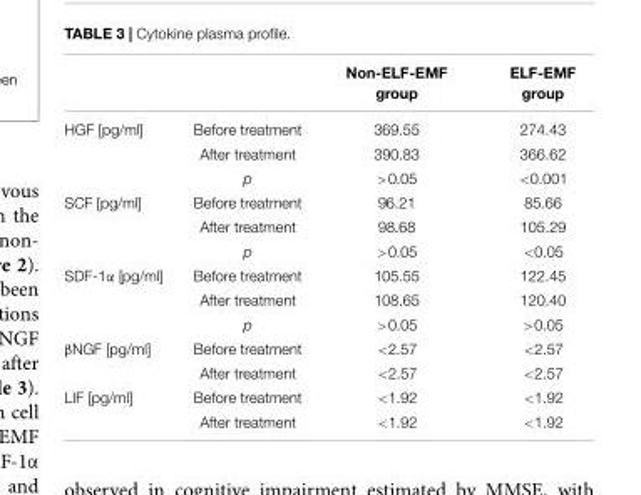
<table><thead><tr><td></td><td></td><td>Non-ELF-EMF group</td><td>ELF-EMF group</td></tr></thead><tbody><tr><td rowspan="3">HGF [pg/ml]</td><td>Before treatment</td><td>369.55</td><td>274.43</td></tr><tr><td>After treatment</td><td>390.83</td><td>366.62</td></tr><tr><td>p</td><td>&gt;0.05</td><td>&lt;0.001</td></tr><tr><td rowspan="3">SCF [pg/ml]</td><td>Before treatment</td><td>96.21</td><td>85.66</td></tr><tr><td>After treatment</td><td>98.68</td><td>105.29</td></tr><tr><td>p</td><td>&gt;0.05</td><td>&lt;0.05</td></tr><tr><td rowspan="3">SDF-1α [pg/ml]</td><td>Before treatment</td><td>105.55</td><td>122.45</td></tr><tr><td>After treatment</td><td>108.65</td><td>120.40</td></tr><tr><td>p</td><td>&gt;0.05</td><td>&gt;0.05</td></tr><tr><td rowspan="2">βNGF [pg/ml]</td><td>Before treatment</td><td>&lt;2.57</td><td>&lt;2.57</td></tr><tr><td>After treatment</td><td>&lt;2.57</td><td>&lt;2.57</td></tr><tr><td rowspan="2">LIF [pg/ml]</td><td>Before treatment</td><td>&lt;1.92</td><td>&lt;1.92</td></tr><tr><td>After treatment</td><td>&lt;1.92</td><td>&lt;1.92</td></tr></tbody></table>